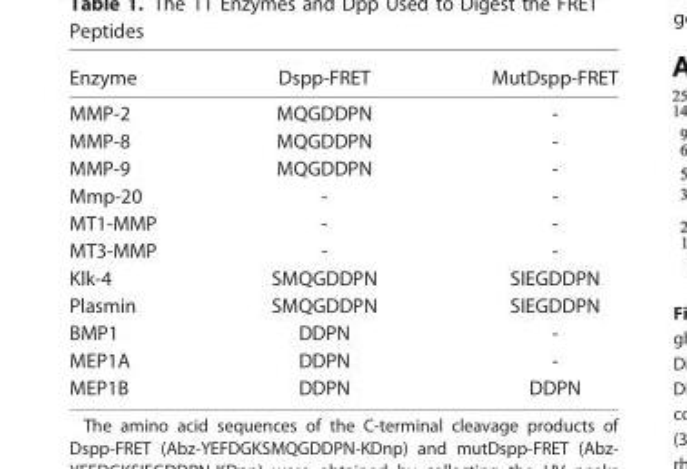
<table><thead><tr><td>Enzyme</td><td>Dspp-FRET</td><td>MutDspp-FRET</td></tr></thead><tbody><tr><td>MMP-2</td><td>MQGDDPN</td><td>-</td></tr><tr><td>MMP-8</td><td>MQGDDPN</td><td>-</td></tr><tr><td>MMP-9</td><td>MQGDDPN</td><td>-</td></tr><tr><td>Mmp-20</td><td>-</td><td>-</td></tr><tr><td>MT1-MMP</td><td>-</td><td>-</td></tr><tr><td>MT3-MMP</td><td>-</td><td>-</td></tr><tr><td>Klk-4</td><td>SMQGDDPN</td><td>SIEGDDPN</td></tr><tr><td>Plasmin</td><td>SMQGDDPN</td><td>SIEGDDPN</td></tr><tr><td>BMP1</td><td>DDPN</td><td>-</td></tr><tr><td>MEP1A</td><td>DDPN</td><td>-</td></tr><tr><td>MEP1B</td><td>DDPN</td><td>DDPN</td></tr></tbody></table>